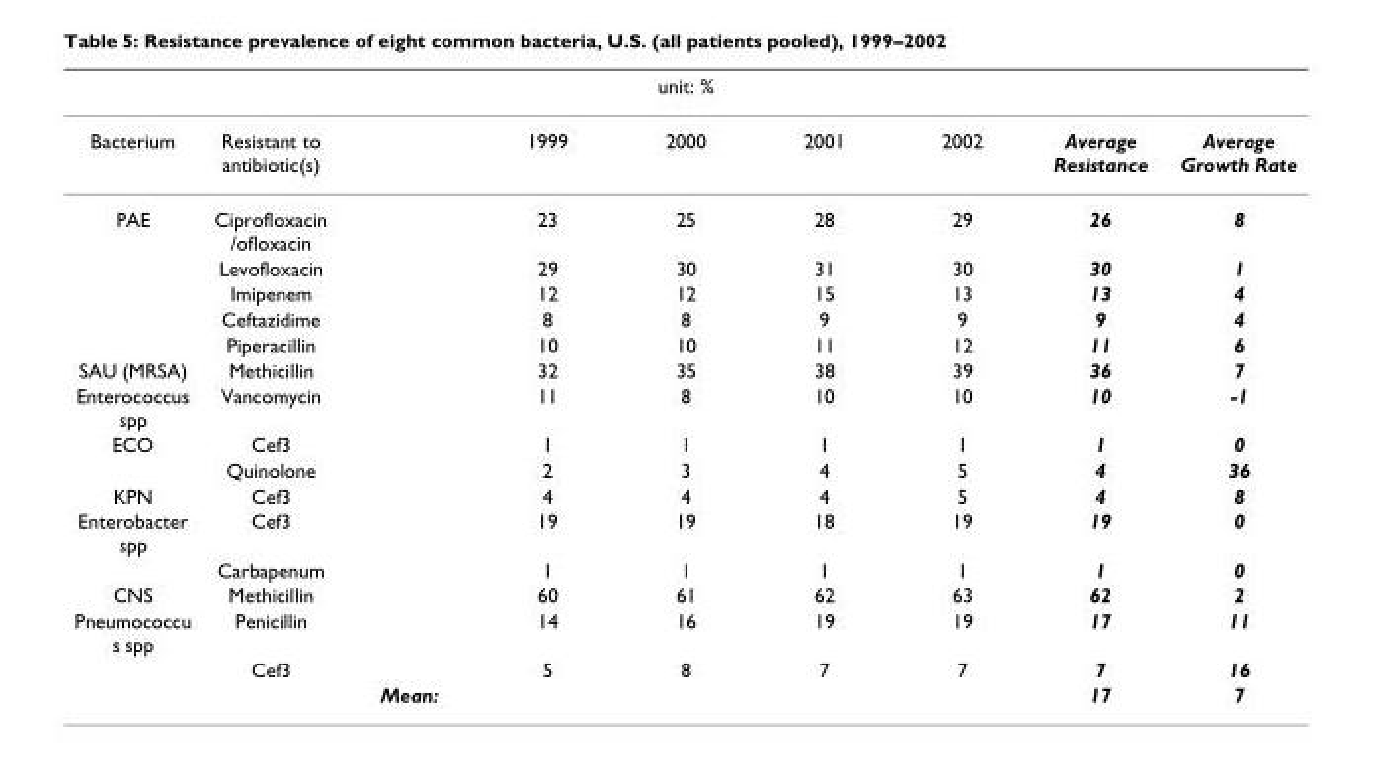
<table><thead><tr><td colspan="9">unit: %</td></tr><tr><td>Bacterium</td><td>Resistant to antibiotic(s)</td><td></td><td>1999</td><td>2000</td><td>2001</td><td>2002</td><td>Average Resistance</td><td>Average Growth Rate</td></tr></thead><tbody><tr><td rowspan="5">PAE</td><td>Ciprofloxacin /ofloxacin</td><td></td><td>23</td><td>25</td><td>28</td><td>29</td><td>26</td><td>8</td></tr><tr><td>Levofloxacin</td><td></td><td>29</td><td>30</td><td>31</td><td>30</td><td>30</td><td>1</td></tr><tr><td>Imipenem</td><td></td><td>12</td><td>12</td><td>15</td><td>13</td><td>13</td><td>4</td></tr><tr><td>Ceftazidime</td><td></td><td>8</td><td>8</td><td>9</td><td>9</td><td>9</td><td>4</td></tr><tr><td>Piperacillin</td><td></td><td>10</td><td>10</td><td>11</td><td>12</td><td>11</td><td>6</td></tr><tr><td>SAU (MRSA)</td><td>Methicillin</td><td></td><td>32</td><td>35</td><td>38</td><td>39</td><td>36</td><td>7</td></tr><tr><td>Enterococcus spp</td><td>Vancomycin</td><td></td><td>11</td><td>8</td><td>10</td><td>10</td><td>10</td><td>-1</td></tr><tr><td rowspan="2">ECO</td><td>Cef3</td><td></td><td>1</td><td>1</td><td>1</td><td>1</td><td>1</td><td>0</td></tr><tr><td>Quinolone</td><td></td><td>2</td><td>3</td><td>4</td><td>5</td><td>4</td><td>36</td></tr><tr><td>KPN</td><td>Cef3</td><td></td><td>4</td><td>4</td><td>4</td><td>5</td><td>4</td><td>8</td></tr><tr><td rowspan="2">Enterobacter spp</td><td>Cef3</td><td></td><td>19</td><td>19</td><td>18</td><td>19</td><td>19</td><td>0</td></tr><tr><td>Carbapenum</td><td></td><td>1</td><td>1</td><td>1</td><td>1</td><td>1</td><td>0</td></tr><tr><td>CNS</td><td>Methicillin</td><td></td><td>60</td><td>61</td><td>62</td><td>63</td><td>62</td><td>2</td></tr><tr><td rowspan="3">Pneumococcu s spp</td><td>Penicillin</td><td></td><td>14</td><td>16</td><td>19</td><td>19</td><td>17</td><td>11</td></tr><tr><td>Cef3</td><td></td><td>5</td><td>8</td><td>7</td><td>7</td><td>7</td><td>16</td></tr><tr><td></td><td>Mean:</td><td></td><td></td><td></td><td></td><td>17</td><td>7</td></tr></tbody></table>